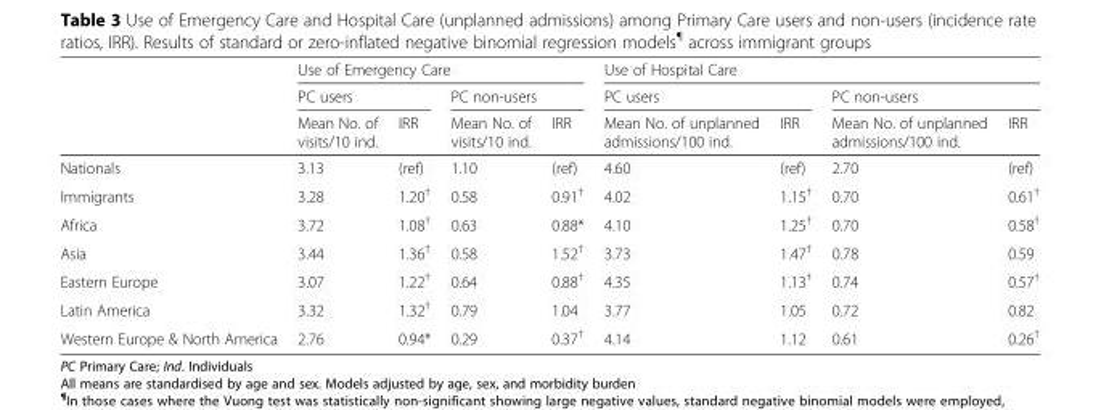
<table><thead><tr><td rowspan="3"></td><td colspan="4">Use of Emergency Care</td><td colspan="4">Use of Hospital Care</td></tr><tr><td colspan="2">PC users</td><td colspan="2">PC non-users</td><td colspan="2">PC users</td><td colspan="2">PC non-users</td></tr><tr><td>Mean No. of visits/10 ind.</td><td>IRR</td><td>Mean No. of visits/10 ind.</td><td>IRR</td><td>Mean No. of unplanned admissions/100 ind.</td><td>IRR</td><td>Mean No. of unplanned admissions/100 ind.</td><td>IRR</td></tr></thead><tbody><tr><td>Nationals</td><td>3.13</td><td>(ref)</td><td>1.10</td><td>(ref)</td><td>4.60</td><td>(ref)</td><td>2.70</td><td>(ref)</td></tr><tr><td>Immigrants</td><td>3.28</td><td>1.20<sup>†</sup></td><td>0.58</td><td>0.91<sup>†</sup></td><td>4.02</td><td>1.15<sup>†</sup></td><td>0.70</td><td>0.61<sup>†</sup></td></tr><tr><td>Africa</td><td>3.72</td><td>1.08<sup>†</sup></td><td>0.63</td><td>0.88*</td><td>4.10</td><td>1.25<sup>†</sup></td><td>0.70</td><td>0.58<sup>†</sup></td></tr><tr><td>Asia</td><td>3.44</td><td>1.36<sup>†</sup></td><td>0.58</td><td>1.52<sup>†</sup></td><td>3.73</td><td>1.47<sup>†</sup></td><td>0.78</td><td>0.59</td></tr><tr><td>Eastern Europe</td><td>3.07</td><td>1.22<sup>†</sup></td><td>0.64</td><td>0.88<sup>†</sup></td><td>4.35</td><td>1.13<sup>†</sup></td><td>0.74</td><td>0.57<sup>†</sup></td></tr><tr><td>Latin America</td><td>3.32</td><td>1.32<sup>†</sup></td><td>0.79</td><td>1.04</td><td>3.77</td><td>1.05</td><td>0.72</td><td>0.82</td></tr><tr><td>Western Europe &amp; North America</td><td>2.76</td><td>0.94*</td><td>0.29</td><td>0.37<sup>†</sup></td><td>4.14</td><td>1.12</td><td>0.61</td><td>0.26<sup>†</sup></td></tr></tbody></table>